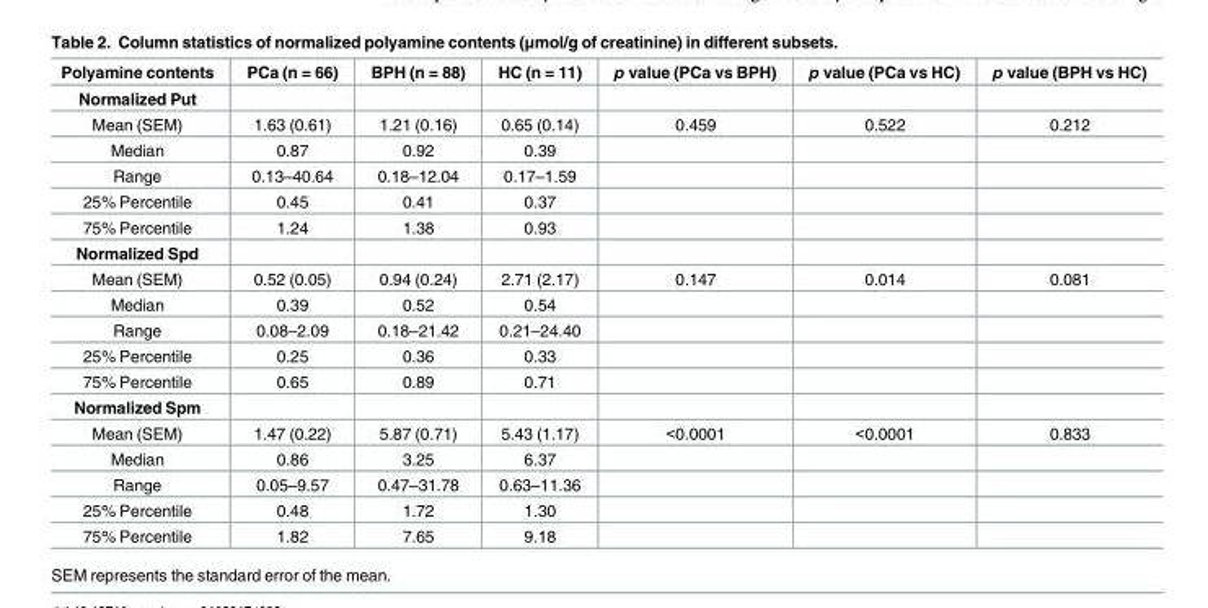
<table><thead><tr><td>Polyamine contents</td><td>PCa (n = 66)</td><td>BPH (n = 88)</td><td>HC (n = 11)</td><td>p value (PCa vs BPH)</td><td>p value (PCa vs HC)</td><td>p value (BPH vs HC)</td></tr></thead><tbody><tr><td colspan="7">Normalized Put</td></tr><tr><td>Mean (SEM)</td><td>1.63 (0.61)</td><td>1.21 (0.16)</td><td>0.65 (0.14)</td><td>0.459</td><td>0.522</td><td>0.212</td></tr><tr><td>Median</td><td>0.87</td><td>0.92</td><td>0.39</td><td></td><td></td><td></td></tr><tr><td>Range</td><td>0.13–40.64</td><td>0.18–12.04</td><td>0.17–1.59</td><td></td><td></td><td></td></tr><tr><td>25% Percentile</td><td>0.45</td><td>0.41</td><td>0.37</td><td></td><td></td><td></td></tr><tr><td>75% Percentile</td><td>1.24</td><td>1.38</td><td>0.93</td><td></td><td></td><td></td></tr><tr><td colspan="7">Normalized Spd</td></tr><tr><td>Mean (SEM)</td><td>0.52 (0.05)</td><td>0.94 (0.24)</td><td>2.71 (2.17)</td><td>0.147</td><td>0.014</td><td>0.081</td></tr><tr><td>Median</td><td>0.39</td><td>0.52</td><td>0.54</td><td></td><td></td><td></td></tr><tr><td>Range</td><td>0.08–2.09</td><td>0.18–21.42</td><td>0.21–24.40</td><td></td><td></td><td></td></tr><tr><td>25% Percentile</td><td>0.25</td><td>0.36</td><td>0.33</td><td></td><td></td><td></td></tr><tr><td>75% Percentile</td><td>0.65</td><td>0.89</td><td>0.71</td><td></td><td></td><td></td></tr><tr><td colspan="7">Normalized Spm</td></tr><tr><td>Mean (SEM)</td><td>1.47 (0.22)</td><td>5.87 (0.71)</td><td>5.43 (1.17)</td><td>&lt;0.0001</td><td>&lt;0.0001</td><td>0.833</td></tr><tr><td>Median</td><td>0.86</td><td>3.25</td><td>6.37</td><td></td><td></td><td></td></tr><tr><td>Range</td><td>0.05–9.57</td><td>0.47–31.78</td><td>0.63–11.36</td><td></td><td></td><td></td></tr><tr><td>25% Percentile</td><td>0.48</td><td>1.72</td><td>1.30</td><td></td><td></td><td></td></tr><tr><td>75% Percentile</td><td>1.82</td><td>7.65</td><td>9.18</td><td></td><td></td><td></td></tr></tbody></table>